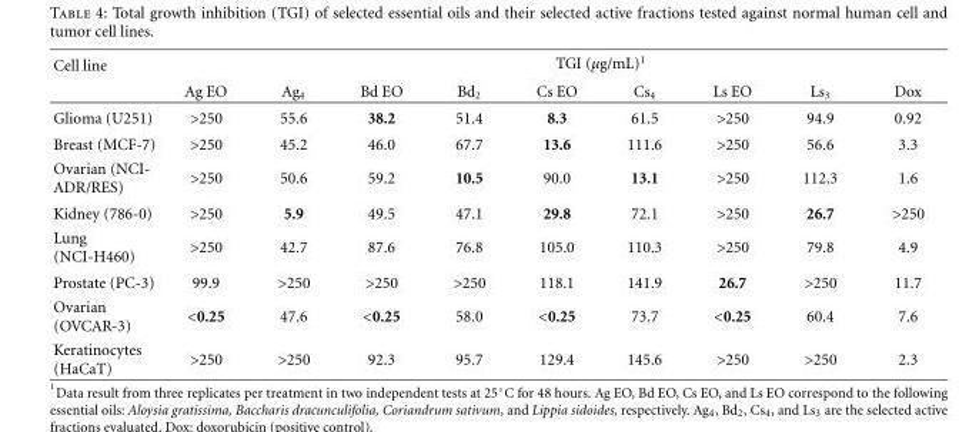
<table><thead><tr><td rowspan="2">Cell line</td><td rowspan="2">Ag EO</td><td colspan="8">TGI (µg/mL)<sup>1</sup></td></tr><tr><td>Ag<sub>4</sub></td><td>Bd EO</td><td>Bd<sub>2</sub></td><td>Cs EO</td><td>Cs<sub>4</sub></td><td>Ls EO</td><td>Ls<sub>3</sub></td><td>Dox</td></tr></thead><tbody><tr><td>Glioma (U251)</td><td>&gt;250</td><td>55.6</td><td>38.2</td><td>51.4</td><td>8.3</td><td>61.5</td><td>&gt;250</td><td>94.9</td><td>0.92</td></tr><tr><td>Breast (MCF-7)</td><td>&gt;250</td><td>45.2</td><td>46.0</td><td>67.7</td><td>13.6</td><td>111.6</td><td>&gt;250</td><td>56.6</td><td>3.3</td></tr><tr><td>Ovarian (NCI- ADR/RES)</td><td>&gt;250</td><td>50.6</td><td>59.2</td><td>10.5</td><td>90.0</td><td>13.1</td><td>&gt;250</td><td>112.3</td><td>1.6</td></tr><tr><td>Kidney (786-0)</td><td>&gt;250</td><td>5.9</td><td>49.5</td><td>47.1</td><td>29.8</td><td>72.1</td><td>&gt;250</td><td>26.7</td><td>&gt;250</td></tr><tr><td>Lung (NCI-H460)</td><td>&gt;250</td><td>42.7</td><td>87.6</td><td>76.8</td><td>105.0</td><td>110.3</td><td>&gt;250</td><td>79.8</td><td>4.9</td></tr><tr><td>Prostate (PC-3)</td><td>99.9</td><td>&gt;250</td><td>&gt;250</td><td>&gt;250</td><td>118.1</td><td>141.9</td><td>26.7</td><td>&gt;250</td><td>11.7</td></tr><tr><td>Ovarian (OVCAR-3)</td><td>&lt;0.25</td><td>47.6</td><td>&lt;0.25</td><td>58.0</td><td>&lt;0.25</td><td>73.7</td><td>&lt;0.25</td><td>60.4</td><td>7.6</td></tr><tr><td>Keratinocytes (HaCaT)</td><td>&gt;250</td><td>&gt;250</td><td>92.3</td><td>95.7</td><td>129.4</td><td>145.6</td><td>&gt;250</td><td>&gt;250</td><td>2.3</td></tr></tbody></table>